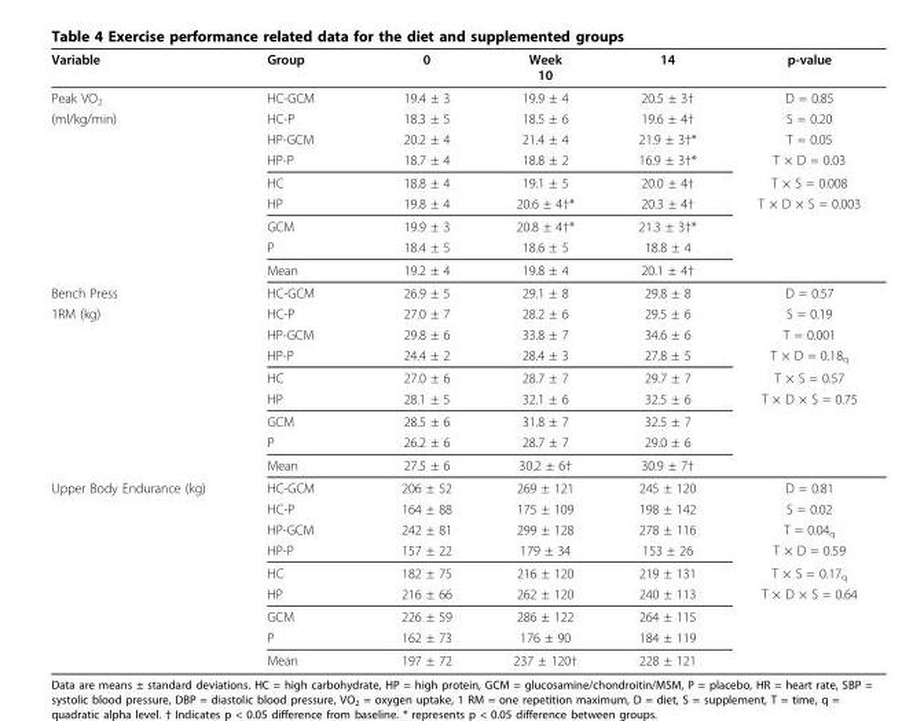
<table><thead><tr><td>Variable</td><td>Group</td><td>0</td><td>Week 10</td><td>14</td><td>p-value</td></tr></thead><tbody><tr><td>Peak VO<sub>2</sub></td><td>HC-GCM</td><td>19.4 ± 3</td><td>19.9 ± 4</td><td>20.5 ± 3†</td><td>D = 0.85</td></tr><tr><td rowspan="8">(ml/kg/min)</td><td>HC-P</td><td>18.3 ± 5</td><td>18.5 ± 6</td><td>19.6 ± 4†</td><td>S = 0.20</td></tr><tr><td>HP-GCM</td><td>20.2 ± 4</td><td>21.4 ± 4</td><td>21.9 ± 3†*</td><td>T = 0.05</td></tr><tr><td>HP-P</td><td>18.7 ± 4</td><td>18.8 ± 2</td><td>16.9 ± 3†*</td><td>T × D = 0.03</td></tr><tr><td>HC</td><td>18.8 ± 4</td><td>19.1 ± 5</td><td>20.0 ± 4†</td><td>T × S = 0.008</td></tr><tr><td>HP</td><td>19.8 ± 4</td><td>20.6 ± 4†*</td><td>20.3 ± 4†</td><td>T × D × S = 0.003</td></tr><tr><td>GCM</td><td>19.9 ± 3</td><td>20.8 ± 4†*</td><td>21.3 ± 3†*</td><td></td></tr><tr><td>P</td><td>18.4 ± 5</td><td>18.6 ± 5</td><td>18.8 ± 4</td><td></td></tr><tr><td>Mean</td><td>19.2 ± 4</td><td>19.8 ± 4</td><td>20.1 ± 4†</td><td></td></tr><tr><td>Bench Press</td><td>HC-GCM</td><td>26.9 ± 5</td><td>29.1 ± 8</td><td>29.8 ± 8</td><td>D = 0.57</td></tr><tr><td rowspan="8">1RM (kg)</td><td>HC-P</td><td>27.0 ± 7</td><td>28.2 ± 6</td><td>29.5 ± 6</td><td>S = 0.19</td></tr><tr><td>HP-GCM</td><td>29.8 ± 6</td><td>33.8 ± 7</td><td>34.6 ± 6</td><td>T = 0.001</td></tr><tr><td>HP-P</td><td>24.4 ± 2</td><td>28.4 ± 3</td><td>27.8 ± 5</td><td>T × D = 0.18<sub>q</sub></td></tr><tr><td>HC</td><td>27.0 ± 6</td><td>28.7 ± 7</td><td>29.7 ± 7</td><td>T × S = 0.57</td></tr><tr><td>HP</td><td>28.1 ± 5</td><td>32.1 ± 6</td><td>32.5 ± 6</td><td>T × D × S = 0.75</td></tr><tr><td>GCM</td><td>28.5 ± 6</td><td>31.8 ± 7</td><td>32.5 ± 7</td><td></td></tr><tr><td>P</td><td>26.2 ± 6</td><td>28.7 ± 7</td><td>29.0 ± 6</td><td></td></tr><tr><td>Mean</td><td>27.5 ± 6</td><td>30.2 ± 6†</td><td>30.9 ± 7†</td><td></td></tr><tr><td rowspan="9">Upper Body Endurance (kg)</td><td>HC-GCM</td><td>206 ± 52</td><td>269 ± 121</td><td>245 ± 120</td><td>D = 0.81</td></tr><tr><td>HC-P</td><td>164 ± 88</td><td>175 ± 109</td><td>198 ± 142</td><td>S = 0.02</td></tr><tr><td>HP-GCM</td><td>242 ± 81</td><td>299 ± 128</td><td>278 ± 116</td><td>T = 0.04<sub>q</sub></td></tr><tr><td>HP-P</td><td>157 ± 22</td><td>179 ± 34</td><td>153 ± 26</td><td>T × D = 0.59</td></tr><tr><td>HC</td><td>182 ± 75</td><td>216 ± 120</td><td>219 ± 131</td><td>T × S = 0.17<sub>q</sub></td></tr><tr><td>HP</td><td>216 ± 66</td><td>262 ± 120</td><td>240 ± 113</td><td>T × D × S = 0.64</td></tr><tr><td>GCM</td><td>226 ± 59</td><td>286 ± 122</td><td>264 ± 115</td><td></td></tr><tr><td>P</td><td>162 ± 73</td><td>176 ± 90</td><td>184 ± 119</td><td></td></tr><tr><td>Mean</td><td>197 ± 72</td><td>237 ± 120†</td><td>228 ± 121</td><td></td></tr></tbody></table>